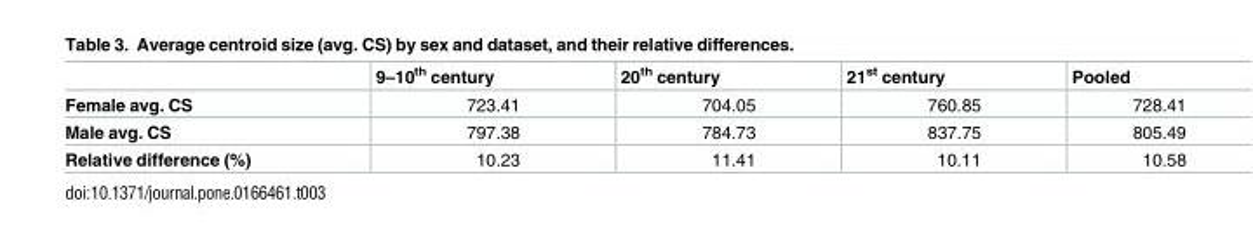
<table><thead><tr><td></td><td>9–10<sup>th</sup> century</td><td>20<sup>th</sup> century</td><td>21<sup>st</sup> century</td><td>Pooled</td></tr></thead><tbody><tr><td>Female avg. CS</td><td>723.41</td><td>704.05</td><td>760.85</td><td>728.41</td></tr><tr><td>Male avg. CS</td><td>797.38</td><td>784.73</td><td>837.75</td><td>805.49</td></tr><tr><td>Relative difference (%)</td><td>10.23</td><td>11.41</td><td>10.11</td><td>10.58</td></tr></tbody></table>